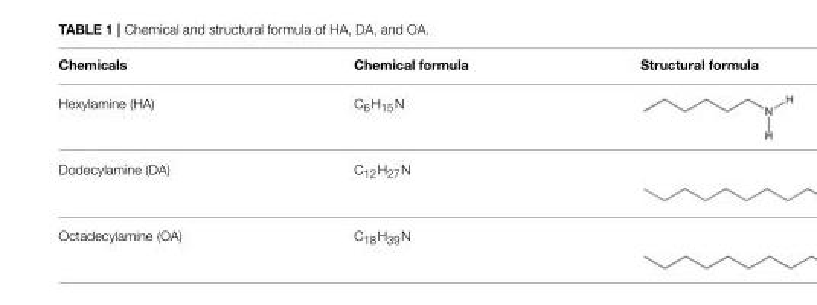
<table><thead><tr><td>Chemicals</td><td>Chemical formula</td><td>Structural formula</td></tr></thead><tbody><tr><td>Hexylamine (HA)</td><td>C<sub>6</sub>H<sub>15</sub>N</td><td></td></tr><tr><td>Dodecylamine (DA)</td><td>C<sub>12</sub>H<sub>27</sub>N</td><td></td></tr><tr><td>Octadecylamine (OA)</td><td>C<sub>18</sub>H<sub>39</sub>N</td><td></td></tr></tbody></table>